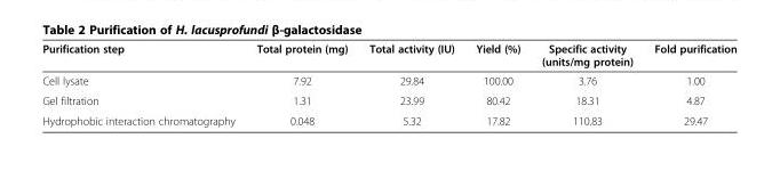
<table><thead><tr><td>Purification step</td><td>Total protein (mg)</td><td>Total activity (IU)</td><td>Yield (%)</td><td>Specific activity (units/mg protein)</td><td>Fold purification</td></tr></thead><tbody><tr><td>Cell lysate</td><td>7.92</td><td>29.84</td><td>100.00</td><td>3.76</td><td>1.00</td></tr><tr><td>Gel filtration</td><td>1.31</td><td>23.99</td><td>80.42</td><td>18.31</td><td>4.87</td></tr><tr><td>Hydrophobic interaction chromatography</td><td>0.048</td><td>5.32</td><td>17.82</td><td>110.83</td><td>29.47</td></tr></tbody></table>